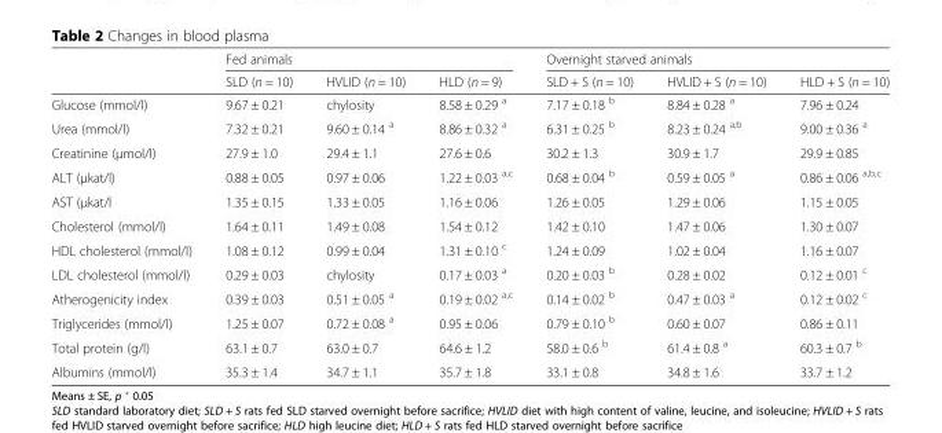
<table><thead><tr><td rowspan="2"></td><td colspan="3">Fed animals</td><td colspan="3">Overnight starved animals</td></tr><tr><td>SLD (n = 10)</td><td>HVLID (n = 10)</td><td>HLD (n = 9)</td><td>SLD + S (n = 10)</td><td>HVLID + S (n = 10)</td><td>HLD + S (n = 10)</td></tr></thead><tbody><tr><td>Glucose (mmol/l)</td><td>9.67 ± 0.21</td><td>chylosity</td><td>8.58 ± 0.29 <sup>a</sup></td><td>7.17 ± 0.18 <sup>b</sup></td><td>8.84 ± 0.28 <sup>a</sup></td><td>7.96 ± 0.24</td></tr><tr><td>Urea (mmol/l)</td><td>7.32 ± 0.21</td><td>9.60 ± 0.14 <sup>a</sup></td><td>8.86 ± 0.32 <sup>a</sup></td><td>6.31 ± 0.25 <sup>b</sup></td><td>8.23 ± 0.24 <sup>a,b</sup></td><td>9.00 ± 0.36 <sup>a</sup></td></tr><tr><td>Creatinine (μmol/l)</td><td>27.9 ± 1.0</td><td>29.4 ± 1.1</td><td>27.6 ± 0.6</td><td>30.2 ± 1.3</td><td>30.9 ± 1.7</td><td>29.9 ± 0.85</td></tr><tr><td>ALT (μkat/l)</td><td>0.88 ± 0.05</td><td>0.97 ± 0.06</td><td>1.22 ± 0.03 <sup>a,c</sup></td><td>0.68 ± 0.04 <sup>b</sup></td><td>0.59 ± 0.05 <sup>a</sup></td><td>0.86 ± 0.06 <sup>a,b,c</sup></td></tr><tr><td>AST (μkat/l</td><td>1.35 ± 0.15</td><td>1.33 ± 0.05</td><td>1.16 ± 0.06</td><td>1.26 ± 0.05</td><td>1.29 ± 0.06</td><td>1.15 ± 0.05</td></tr><tr><td>Cholesterol (mmol/l)</td><td>1.64 ± 0.11</td><td>1.49 ± 0.08</td><td>1.54 ± 0.12</td><td>1.42 ± 0.10</td><td>1.47 ± 0.06</td><td>1.30 ± 0.07</td></tr><tr><td>HDL cholesterol (mmol/l)</td><td>1.08 ± 0.12</td><td>0.99 ± 0.04</td><td>1.31 ± 0.10 <sup>c</sup></td><td>1.24 ± 0.09</td><td>1.02 ± 0.04</td><td>1.16 ± 0.07</td></tr><tr><td>LDL cholesterol (mmol/l)</td><td>0.29 ± 0.03</td><td>chylosity</td><td>0.17 ± 0.03 <sup>a</sup></td><td>0.20 ± 0.03 <sup>b</sup></td><td>0.28 ± 0.02</td><td>0.12 ± 0.01 <sup>c</sup></td></tr><tr><td>Atherogenicity index</td><td>0.39 ± 0.03</td><td>0.51 ± 0.05 <sup>a</sup></td><td>0.19 ± 0.02 <sup>a,c</sup></td><td>0.14 ± 0.02 <sup>b</sup></td><td>0.47 ± 0.03 <sup>a</sup></td><td>0.12 ± 0.02 <sup>c</sup></td></tr><tr><td>Triglycerides (mmol/l)</td><td>1.25 ± 0.07</td><td>0.72 ± 0.08 <sup>a</sup></td><td>0.95 ± 0.06</td><td>0.79 ± 0.10 <sup>b</sup></td><td>0.60 ± 0.07</td><td>0.86 ± 0.11</td></tr><tr><td>Total protein (g/l)</td><td>63.1 ± 0.7</td><td>63.0 ± 0.7</td><td>64.6 ± 1.2</td><td>58.0 ± 0.6 <sup>b</sup></td><td>61.4 ± 0.8 <sup>a</sup></td><td>60.3 ± 0.7 <sup>b</sup></td></tr><tr><td>Albumins (mmol/l)</td><td>35.3 ± 1.4</td><td>34.7 ± 1.1</td><td>35.7 ± 1.8</td><td>33.1 ± 0.8</td><td>34.8 ± 1.6</td><td>33.7 ± 1.2</td></tr></tbody></table>